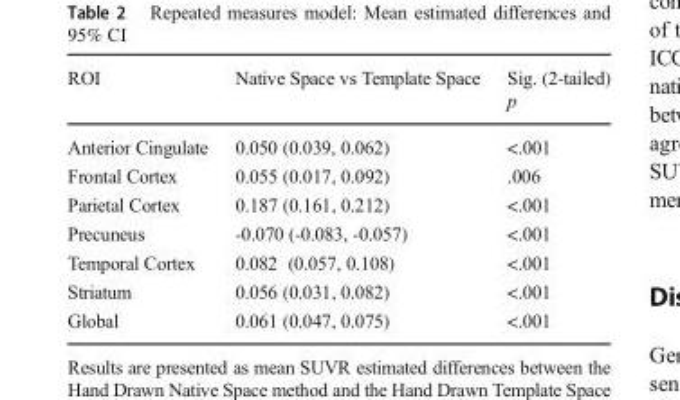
<table><thead><tr><td>ROI</td><td>Native Space vs Template Space</td><td>Sig. (2-tailed) p</td></tr></thead><tbody><tr><td>Anterior Cingulate</td><td>0.050 (0.039, 0.062)</td><td>&lt;.001</td></tr><tr><td>Frontal Cortex</td><td>0.055 (0.017, 0.092)</td><td>.006</td></tr><tr><td>Parietal Cortex</td><td>0.187 (0.161, 0.212)</td><td>&lt;.001</td></tr><tr><td>Precuneus</td><td>-0.070 (-0.083, -0.057)</td><td>&lt;.001</td></tr><tr><td>Temporal Cortex</td><td>0.082 (0.057, 0.108)</td><td>&lt;.001</td></tr><tr><td>Striatum</td><td>0.056 (0.031, 0.082)</td><td>&lt;.001</td></tr><tr><td>Global</td><td>0.061 (0.047, 0.075)</td><td>&lt;.001</td></tr></tbody></table>